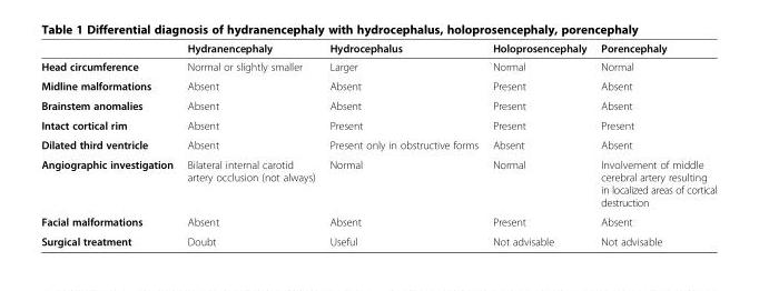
<table><thead><tr><td></td><td>Hydranencephaly</td><td>Hydrocephalus</td><td>Holoprosencephaly</td><td>Porencephaly</td></tr></thead><tbody><tr><td>Head circumference</td><td>Normal or slightly smaller</td><td>Larger</td><td>Normal</td><td>Normal</td></tr><tr><td>Midline malformations</td><td>Absent</td><td>Absent</td><td>Present</td><td>Absent</td></tr><tr><td>Brainstem anomalies</td><td>Absent</td><td>Absent</td><td>Present</td><td>Absent</td></tr><tr><td>Intact cortical rim</td><td>Absent</td><td>Present</td><td>Present</td><td>Present</td></tr><tr><td>Dilated third ventricle</td><td>Absent</td><td>Present only in obstructive forms</td><td>Absent</td><td>Absent</td></tr><tr><td>Angiographic investigation</td><td>Bilateral internal carotid artery occlusion (not always)</td><td>Normal</td><td>Normal</td><td>Involvement of middle cerebral artery resulting in localized areas of cortical destruction</td></tr><tr><td>Facial malformations</td><td>Absent</td><td>Absent</td><td>Present</td><td>Absent</td></tr><tr><td>Surgical treatment</td><td>Doubt</td><td>Useful</td><td>Not advisable</td><td>Not advisable</td></tr></tbody></table>